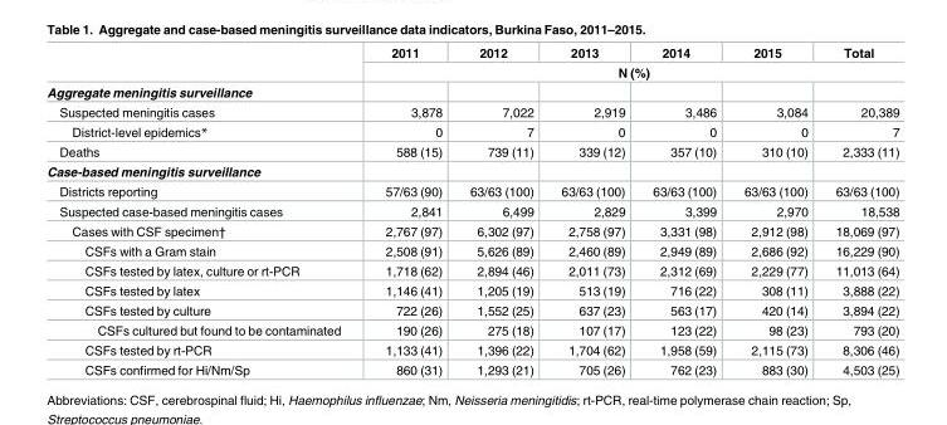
<table><thead><tr><td rowspan="2"></td><td>2011</td><td>2012</td><td>2013</td><td>2014</td><td>2015</td><td>Total</td></tr><tr><td colspan="6">N (%)</td></tr></thead><tbody><tr><td colspan="7">Aggregate meningitis surveillance</td></tr><tr><td>Suspected meningitis cases</td><td>3,878</td><td>7,022</td><td>2,919</td><td>3,486</td><td>3,084</td><td>20,389</td></tr><tr><td>District-level epidemics*</td><td>0</td><td>7</td><td>0</td><td>0</td><td>0</td><td>7</td></tr><tr><td>Deaths</td><td>588 (15)</td><td>739 (11)</td><td>339 (12)</td><td>357 (10)</td><td>310 (10)</td><td>2,333 (11)</td></tr><tr><td colspan="7">Case-based meningitis surveillance</td></tr><tr><td>Districts reporting</td><td>57/63 (90)</td><td>63/63 (100)</td><td>63/63 (100)</td><td>63/63 (100)</td><td>63/63 (100)</td><td>63/63 (100)</td></tr><tr><td>Suspected case-based meningitis cases</td><td>2,841</td><td>6,499</td><td>2,829</td><td>3,399</td><td>2,970</td><td>18,538</td></tr><tr><td>Cases with CSF specimen†</td><td>2,767 (97)</td><td>6,302 (97)</td><td>2,758 (97)</td><td>3,331 (98)</td><td>2,912 (98)</td><td>18,069 (97)</td></tr><tr><td>CSFs with a Gram stain</td><td>2,508 (91)</td><td>5,626 (89)</td><td>2,460 (89)</td><td>2,949 (89)</td><td>2,686 (92)</td><td>16,229 (90)</td></tr><tr><td>CSFs tested by latex, culture or rt-PCR</td><td>1,718 (62)</td><td>2,894 (46)</td><td>2,011 (73)</td><td>2,312 (69)</td><td>2,229 (77)</td><td>11,013 (64)</td></tr><tr><td>CSFs tested by latex</td><td>1,146 (41)</td><td>1,205 (19)</td><td>513 (19)</td><td>716 (22)</td><td>308 (11)</td><td>3,888 (22)</td></tr><tr><td>CSFs tested by culture</td><td>722 (26)</td><td>1,552 (25)</td><td>637 (23)</td><td>563 (17)</td><td>420 (14)</td><td>3,894 (22)</td></tr><tr><td>CSFs cultured but found to be contaminated</td><td>190 (26)</td><td>275 (18)</td><td>107 (17)</td><td>123 (22)</td><td>98 (23)</td><td>793 (20)</td></tr><tr><td>CSFs tested by rt-PCR</td><td>1,133 (41)</td><td>1,396 (22)</td><td>1,704 (62)</td><td>1,958 (59)</td><td>2,115 (73)</td><td>8,306 (46)</td></tr><tr><td>CSFs confirmed for Hi/Nm/Sp</td><td>860 (31)</td><td>1,293 (21)</td><td>705 (26)</td><td>762 (23)</td><td>883 (30)</td><td>4,503 (25)</td></tr></tbody></table>